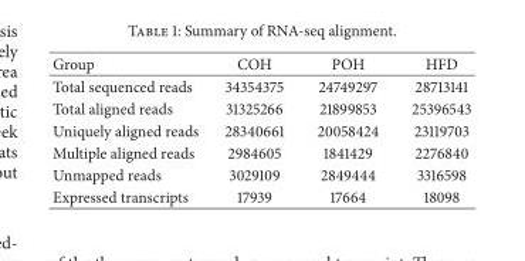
<table><thead><tr><td>Group</td><td>COH</td><td>POH</td><td>HFD</td></tr></thead><tbody><tr><td>Total sequenced reads</td><td>34354375</td><td>24749297</td><td>28713141</td></tr><tr><td>Total aligned reads</td><td>31325266</td><td>21899853</td><td>25396543</td></tr><tr><td>Uniquely aligned reads</td><td>28340661</td><td>20058424</td><td>23119703</td></tr><tr><td>Multiple aligned reads</td><td>2984605</td><td>1841429</td><td>2276840</td></tr><tr><td>Unmapped reads</td><td>3029109</td><td>2849444</td><td>3316598</td></tr><tr><td>Expressed transcripts</td><td>17939</td><td>17664</td><td>18098</td></tr></tbody></table>